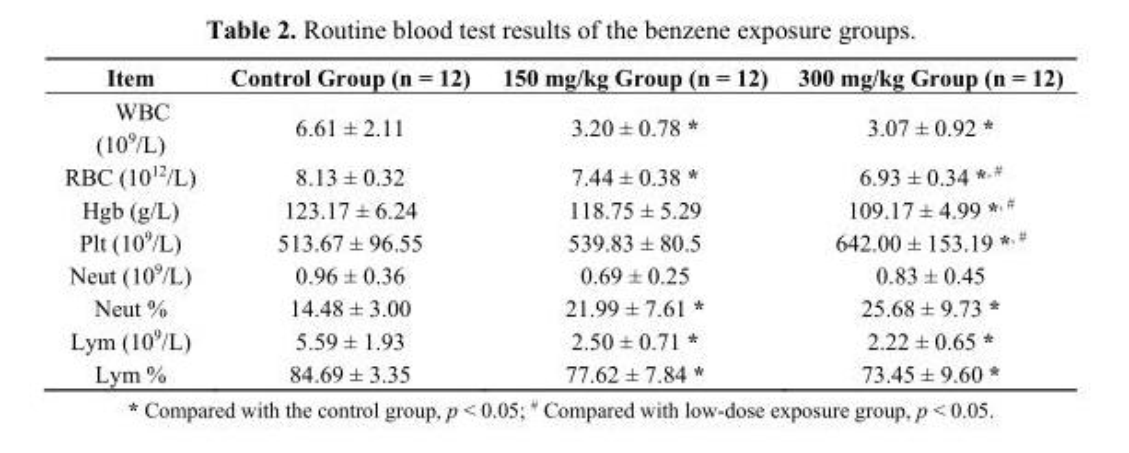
<table><thead><tr><td>Item</td><td>Control Group (n = 12)</td><td>150 mg/kg Group (n = 12)</td><td>300 mg/kg Group (n = 12)</td></tr></thead><tbody><tr><td>WBC (10<sup>9</sup>/L)</td><td>6.61 ± 2.11</td><td>3.20 ± 0.78 *</td><td>3.07 ± 0.92 *</td></tr><tr><td>RBC (10<sup>12</sup>/L)</td><td>8.13 ± 0.32</td><td>7.44 ± 0.38 *</td><td>6.93 ± 0.34 *<sup>, #</sup></td></tr><tr><td>Hgb (g/L)</td><td>123.17 ± 6.24</td><td>118.75 ± 5.29</td><td>109.17 ± 4.99 *<sup>, #</sup></td></tr><tr><td>Plt (10<sup>9</sup>/L)</td><td>513.67 ± 96.55</td><td>539.83 ± 80.5</td><td>642.00 ± 153.19 *<sup>, #</sup></td></tr><tr><td>Neut (10<sup>9</sup>/L)</td><td>0.96 ± 0.36</td><td>0.69 ± 0.25</td><td>0.83 ± 0.45</td></tr><tr><td>Neut %</td><td>14.48 ± 3.00</td><td>21.99 ± 7.61 *</td><td>25.68 ± 9.73 *</td></tr><tr><td>Lym (10<sup>9</sup>/L)</td><td>5.59 ± 1.93</td><td>2.50 ± 0.71 *</td><td>2.22 ± 0.65 *</td></tr><tr><td>Lym %</td><td>84.69 ± 3.35</td><td>77.62 ± 7.84 *</td><td>73.45 ± 9.60 *</td></tr></tbody></table>